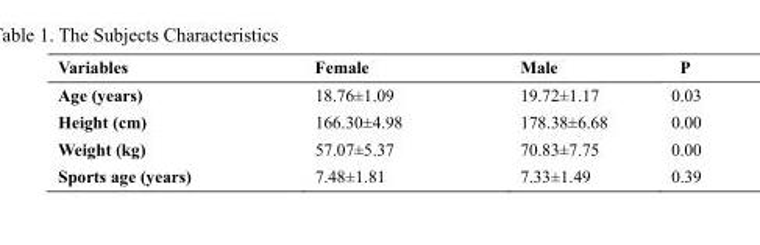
<table><thead><tr><td>Variables</td><td>Female</td><td>Male</td><td>P</td></tr></thead><tbody><tr><td>Age (years)</td><td>18.76±1.09</td><td>19.72±1.17</td><td>0.03</td></tr><tr><td>Height (cm)</td><td>166.30±4.98</td><td>178.38±6.68</td><td>0.00</td></tr><tr><td>Weight (kg)</td><td>57.07±5.37</td><td>70.83±7.75</td><td>0.00</td></tr><tr><td>Sports age (years)</td><td>7.48±1.81</td><td>7.33±1.49</td><td>0.39</td></tr></tbody></table>